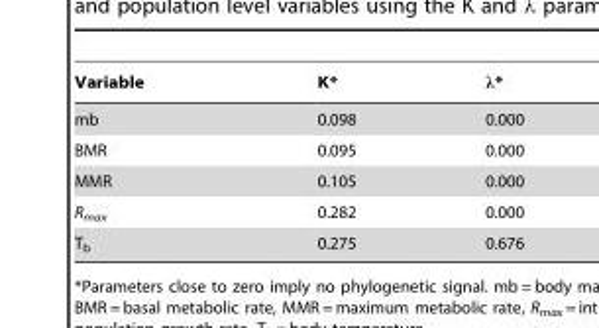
<table><thead><tr><td>Variable</td><td>K*</td><td>λ*</td></tr></thead><tbody><tr><td>mb</td><td>0.098</td><td>0.000</td></tr><tr><td>BMR</td><td>0.095</td><td>0.000</td></tr><tr><td>MMR</td><td>0.105</td><td>0.000</td></tr><tr><td>R<sub>max</sub></td><td>0.282</td><td>0.000</td></tr><tr><td>T<sub>b</sub></td><td>0.275</td><td>0.676</td></tr></tbody></table>